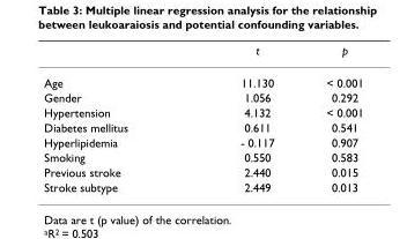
<table><thead><tr><td></td><td>t</td><td>p</td></tr></thead><tbody><tr><td>Age</td><td>11.130</td><td>&lt; 0.001</td></tr><tr><td>Gender</td><td>1.056</td><td>0.292</td></tr><tr><td>Hypertension</td><td>4.132</td><td>&lt; 0.001</td></tr><tr><td>Diabetes mellitus</td><td>0.611</td><td>0.541</td></tr><tr><td>Hyperlipidemia</td><td>- 0.117</td><td>0.907</td></tr><tr><td>Smoking</td><td>0.550</td><td>0.583</td></tr><tr><td>Previous stroke</td><td>2.440</td><td>0.015</td></tr><tr><td>Stroke subtype</td><td>2.449</td><td>0.013</td></tr></tbody></table>